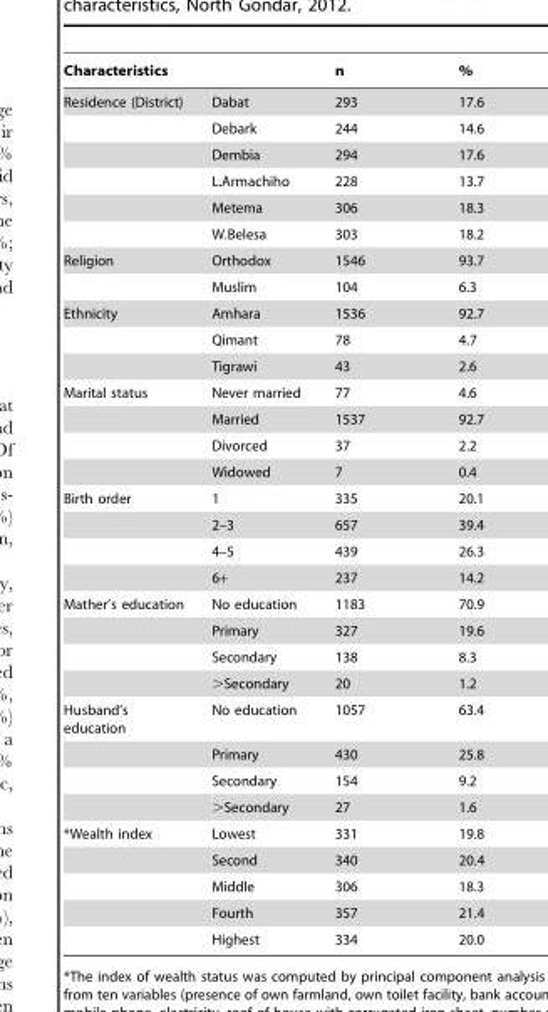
<table><thead><tr><td colspan="2">Characteristics</td><td rowspan="2">n 293</td><td rowspan="2">% 17.6</td></tr><tr><td>Residence (District)</td><td>Dabat</td></tr></thead><tbody><tr><td></td><td>Debark</td><td>244</td><td>14.6</td></tr><tr><td></td><td>Dembia</td><td>294</td><td>17.6</td></tr><tr><td></td><td>L.Armachiho</td><td>228</td><td>13.7</td></tr><tr><td></td><td>Metema</td><td>306</td><td>18.3</td></tr><tr><td></td><td>W.Belesa</td><td>303</td><td>18.2</td></tr><tr><td rowspan="2">Religion</td><td>Orthodox</td><td>1546</td><td>93.7</td></tr><tr><td>Muslim</td><td>104</td><td>6.3</td></tr><tr><td rowspan="3">Ethnicity</td><td>Amhara</td><td>1536</td><td>92.7</td></tr><tr><td>Qimant</td><td>78</td><td>4.7</td></tr><tr><td>Tigrawi</td><td>43</td><td>2.6</td></tr><tr><td rowspan="4">Marital status</td><td>Never married</td><td>77</td><td>4.6</td></tr><tr><td>Married</td><td>1537</td><td>92.7</td></tr><tr><td>Divorced</td><td>37</td><td>2.2</td></tr><tr><td>Widowed</td><td>7</td><td>0.4</td></tr><tr><td rowspan="4">Birth order</td><td>1</td><td>335</td><td>20.1</td></tr><tr><td>2–3</td><td>657</td><td>39.4</td></tr><tr><td>4–5</td><td>439</td><td>26.3</td></tr><tr><td>6+</td><td>237</td><td>14.2</td></tr><tr><td rowspan="4">Mather’s education</td><td>No education</td><td>1183</td><td>70.9</td></tr><tr><td>Primary</td><td>327</td><td>19.6</td></tr><tr><td>Secondary</td><td>138</td><td>8.3</td></tr><tr><td>&gt;Secondary</td><td>20</td><td>1.2</td></tr><tr><td rowspan="4">Husband’s education</td><td>No education</td><td>1057</td><td>63.4</td></tr><tr><td>Primary</td><td>430</td><td>25.8</td></tr><tr><td>Secondary</td><td>154</td><td>9.2</td></tr><tr><td>&gt;Secondary</td><td>27</td><td>1.6</td></tr><tr><td rowspan="5">*Wealth index</td><td>Lowest</td><td>331</td><td>19.8</td></tr><tr><td>Second</td><td>340</td><td>20.4</td></tr><tr><td>Middle</td><td>306</td><td>18.3</td></tr><tr><td>Fourth</td><td>357</td><td>21.4</td></tr><tr><td>Highest</td><td>334</td><td>20.0</td></tr></tbody></table>